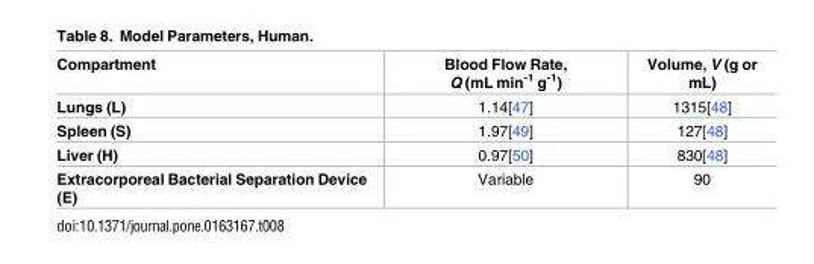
<table><thead><tr><td>Compartment</td><td>Blood Flow Rate, Q (mL min<sup>-1</sup> g<sup>-1</sup>)</td><td>Volume, V (g or mL)</td></tr></thead><tbody><tr><td>Lungs (L)</td><td>1.14[47]</td><td>1315[48]</td></tr><tr><td>Spleen (S)</td><td>1.97[49]</td><td>127[48]</td></tr><tr><td>Liver (H)</td><td>0.97[50]</td><td>830[48]</td></tr><tr><td>Extracorporeal Bacterial Separation Device (E)</td><td>Variable</td><td>90</td></tr></tbody></table>